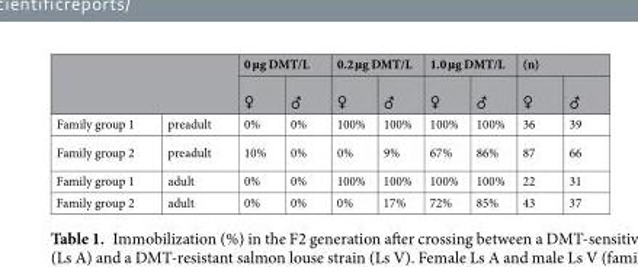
<table><thead><tr><td rowspan="2"></td><td rowspan="2"></td><td colspan="2">0 µg DMT/L</td><td colspan="2">0.2 µg DMT/L</td><td colspan="2">1.0 µg DMT/L</td><td colspan="2">(n)</td></tr><tr><td>♀</td><td>♂</td><td>♀</td><td>♂</td><td>♀</td><td>♂</td><td>♀</td><td>♂</td></tr></thead><tbody><tr><td>Family group 1</td><td>preadult</td><td>0%</td><td>0%</td><td>100%</td><td>100%</td><td>100%</td><td>100%</td><td>36</td><td>39</td></tr><tr><td>Family group 2</td><td>preadult</td><td>10%</td><td>0%</td><td>0%</td><td>9%</td><td>67%</td><td>86%</td><td>87</td><td>66</td></tr><tr><td>Family group 1</td><td>adult</td><td>0%</td><td>0%</td><td>100%</td><td>100%</td><td>100%</td><td>100%</td><td>22</td><td>31</td></tr><tr><td>Family group 2</td><td>adult</td><td>0%</td><td>0%</td><td>0%</td><td>17%</td><td>72%</td><td>85%</td><td>43</td><td>37</td></tr></tbody></table>